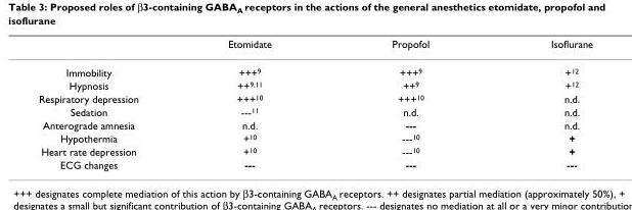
<table><thead><tr><td></td><td>Etomidate</td><td>Propofol</td><td>Isoflurane</td></tr></thead><tbody><tr><td>Immobility</td><td>+++<sup>9</sup></td><td>+++<sup>9</sup></td><td>+<sup>12</sup></td></tr><tr><td>Hypnosis</td><td>++<sup>9,11</sup></td><td>++<sup>9</sup></td><td>+<sup>12</sup></td></tr><tr><td>Respiratory depression</td><td>+++<sup>10</sup></td><td>+++<sup>10</sup></td><td>n.d.</td></tr><tr><td>Sedation</td><td>---<sup>11</sup></td><td>n.d.</td><td>n.d.</td></tr><tr><td>Anterograde amnesia</td><td>n.d.</td><td>---</td><td>n.d.</td></tr><tr><td>Hypothermia</td><td>+<sup>10</sup></td><td>---<sup>10</sup></td><td>+</td></tr><tr><td>Heart rate depression</td><td>+<sup>10</sup></td><td>---<sup>10</sup></td><td>+</td></tr><tr><td>ECG changes</td><td>---</td><td>---</td><td>---</td></tr></tbody></table>